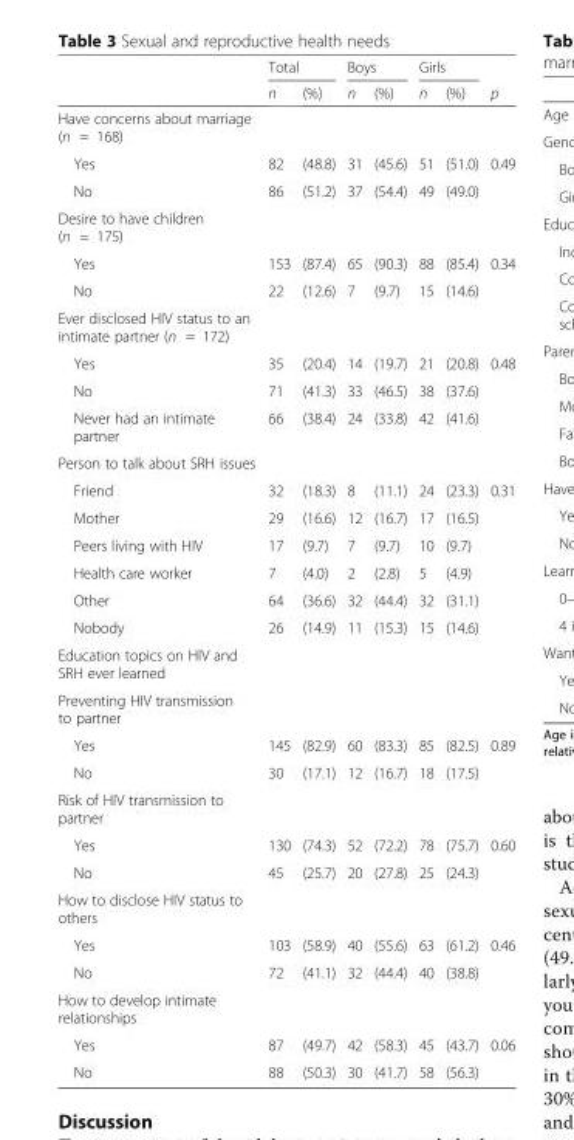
<table><thead><tr><td rowspan="2"></td><td colspan="2">Total</td><td colspan="2">Boys</td><td colspan="2">Girls</td><td rowspan="2">p</td></tr><tr><td>n</td><td>(%)</td><td>n</td><td>(%)</td><td>n</td><td>(%)</td></tr></thead><tbody><tr><td colspan="8">Have concerns about marriage (n = 168)</td></tr><tr><td>Yes</td><td>82</td><td>(48.8)</td><td>31</td><td>(45.6)</td><td>51</td><td>(51.0)</td><td>0.49</td></tr><tr><td>No</td><td>86</td><td>(51.2)</td><td>37</td><td>(54.4)</td><td>49</td><td>(49.0)</td><td></td></tr><tr><td colspan="8">Desire to have children (n = 175)</td></tr><tr><td>Yes</td><td>153</td><td>(87.4)</td><td>65</td><td>(90.3)</td><td>88</td><td>(85.4)</td><td>0.34</td></tr><tr><td>No</td><td>22</td><td>(12.6)</td><td>7</td><td>(9.7)</td><td>15</td><td>(14.6)</td><td></td></tr><tr><td colspan="8">Ever disclosed HIV status to an intimate partner (n = 172)</td></tr><tr><td>Yes</td><td>35</td><td>(20.4)</td><td>14</td><td>(19.7)</td><td>21</td><td>(20.8)</td><td>0.48</td></tr><tr><td>No</td><td>71</td><td>(41.3)</td><td>33</td><td>(46.5)</td><td>38</td><td>(37.6)</td><td></td></tr><tr><td>Never had an intimate partner</td><td>66</td><td>(38.4)</td><td>24</td><td>(33.8)</td><td>42</td><td>(41.6)</td><td></td></tr><tr><td colspan="8">Person to talk about SRH issues</td></tr><tr><td>Friend</td><td>32</td><td>(18.3)</td><td>8</td><td>(11.1)</td><td>24</td><td>(23.3)</td><td>0.31</td></tr><tr><td>Mother</td><td>29</td><td>(16.6)</td><td>12</td><td>(16.7)</td><td>17</td><td>(16.5)</td><td></td></tr><tr><td>Peers living with HIV</td><td>17</td><td>(9.7)</td><td>7</td><td>(9.7)</td><td>10</td><td>(9.7)</td><td></td></tr><tr><td>Health care worker</td><td>7</td><td>(4.0)</td><td>2</td><td>(2.8)</td><td>5</td><td>(4.9)</td><td></td></tr><tr><td>Other</td><td>64</td><td>(36.6)</td><td>32</td><td>(44.4)</td><td>32</td><td>(31.1)</td><td></td></tr><tr><td>Nobody</td><td>26</td><td>(14.9)</td><td>11</td><td>(15.3)</td><td>15</td><td>(14.6)</td><td></td></tr><tr><td colspan="8">Education topics on HIV and SRH ever learned</td></tr><tr><td colspan="8">Preventing HIV transmission to partner</td></tr><tr><td>Yes</td><td>145</td><td>(82.9)</td><td>60</td><td>(83.3)</td><td>85</td><td>(82.5)</td><td>0.89</td></tr><tr><td>No</td><td>30</td><td>(17.1)</td><td>12</td><td>(16.7)</td><td>18</td><td>(17.5)</td><td></td></tr><tr><td colspan="8">Risk of HIV transmission to partner</td></tr><tr><td>Yes</td><td>130</td><td>(74.3)</td><td>52</td><td>(72.2)</td><td>78</td><td>(75.7)</td><td>0.60</td></tr><tr><td>No</td><td>45</td><td>(25.7)</td><td>20</td><td>(27.8)</td><td>25</td><td>(24.3)</td><td></td></tr><tr><td colspan="8">How to disclose HIV status to others</td></tr><tr><td>Yes</td><td>103</td><td>(58.9)</td><td>40</td><td>(55.6)</td><td>63</td><td>(61.2)</td><td>0.46</td></tr><tr><td>No</td><td>72</td><td>(41.1)</td><td>32</td><td>(44.4)</td><td>40</td><td>(38.8)</td><td></td></tr><tr><td colspan="8">How to develop intimate relationships</td></tr><tr><td>Yes</td><td>87</td><td>(49.7)</td><td>42</td><td>(58.3)</td><td>45</td><td>(43.7)</td><td>0.06</td></tr><tr><td>No</td><td>88</td><td>(50.3)</td><td>30</td><td>(41.7)</td><td>58</td><td>(56.3)</td><td></td></tr></tbody></table>